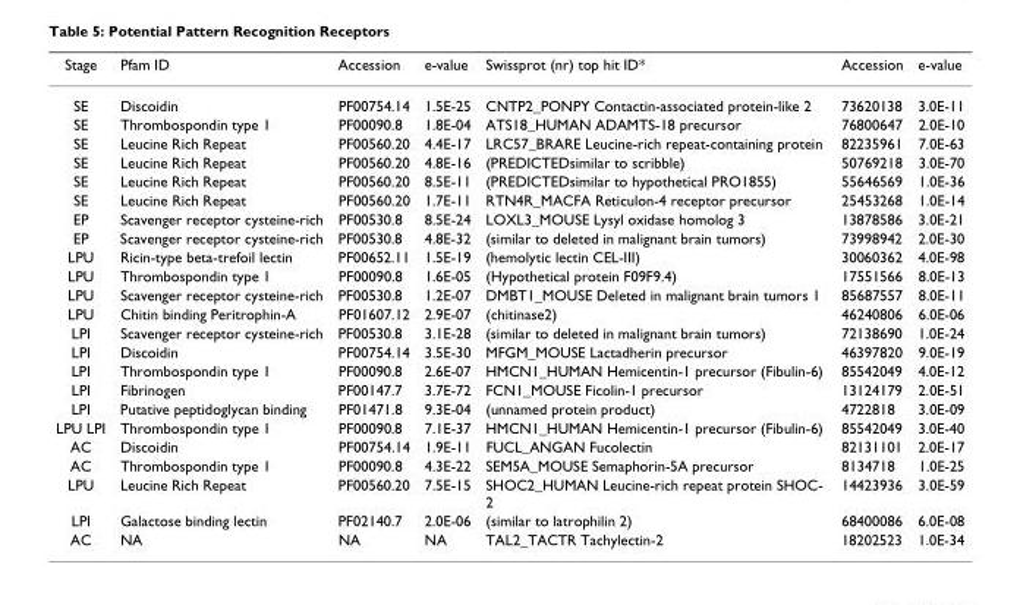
<table><thead><tr><td>Stage</td><td>Pfam ID</td><td>Accession</td><td>e-value</td><td>Swissprot (nr) top hit ID*</td><td>Accession</td><td>e-value</td></tr></thead><tbody><tr><td>SE</td><td>Discoidin</td><td>PF00754.14</td><td>1.5E-25</td><td>CNTP2_PONPY Contactin-associated protein-like 2</td><td>73620138</td><td>3.0E-11</td></tr><tr><td>SE</td><td>Thrombospondin type 1</td><td>PF00090.8</td><td>1.8E-04</td><td>ATS18_HUMAN ADAMTS-18 precursor</td><td>76800647</td><td>2.0E-10</td></tr><tr><td>SE</td><td>Leucine Rich Repeat</td><td>PF00560.20</td><td>4.4E-17</td><td>LRC57_BRARE Leucine-rich repeat-containing protein</td><td>82235961</td><td>7.0E-63</td></tr><tr><td>SE</td><td>Leucine Rich Repeat</td><td>PF00560.20</td><td>4.8E-16</td><td>(PREDICTEDsimilar to scribble)</td><td>50769218</td><td>3.0E-70</td></tr><tr><td>SE</td><td>Leucine Rich Repeat</td><td>PF00560.20</td><td>8.5E-11</td><td>(PREDICTEDsimilar to hypothetical PRO1855)</td><td>55646569</td><td>1.0E-36</td></tr><tr><td>SE</td><td>Leucine Rich Repeat</td><td>PF00560.20</td><td>1.7E-11</td><td>RTN4R_MACFA Reticulon-4 receptor precursor</td><td>25453268</td><td>1.0E-14</td></tr><tr><td>EP</td><td>Scavenger receptor cysteine-rich</td><td>PF00530.8</td><td>8.5E-24</td><td>LOXL3_MOUSE Lysyl oxidase homolog 3</td><td>13878586</td><td>3.0E-21</td></tr><tr><td>EP</td><td>Scavenger receptor cysteine-rich</td><td>PF00530.8</td><td>4.8E-32</td><td>(similar to deleted in malignant brain tumors)</td><td>73998942</td><td>2.0E-30</td></tr><tr><td>LPU</td><td>Ricin-type beta-trefoil lectin</td><td>PF00652.11</td><td>1.5E-19</td><td>(hemolytic lectin CEL-III)</td><td>30060362</td><td>4.0E-98</td></tr><tr><td>LPU</td><td>Thrombospondin type 1</td><td>PF00090.8</td><td>1.6E-05</td><td>(Hypothetical protein F09F9.4)</td><td>17551566</td><td>8.0E-13</td></tr><tr><td>LPU</td><td>Scavenger receptor cysteine-rich</td><td>PF00530.8</td><td>1.2E-07</td><td>DMBT1_MOUSE Deleted in malignant brain tumors 1</td><td>85687557</td><td>8.0E-11</td></tr><tr><td>LPU</td><td>Chitin binding Peritrophin-A</td><td>PF01607.12</td><td>2.9E-07</td><td>(chitinase2)</td><td>46240806</td><td>6.0E-06</td></tr><tr><td>LPI</td><td>Scavenger receptor cysteine-rich</td><td>PF00530.8</td><td>3.1E-28</td><td>(similar to deleted in malignant brain tumors)</td><td>72138690</td><td>1.0E-24</td></tr><tr><td>LPI</td><td>Discoidin</td><td>PF00754.14</td><td>3.5E-30</td><td>MFGM_MOUSE Lactadherin precursor</td><td>46397820</td><td>9.0E-19</td></tr><tr><td>LPI</td><td>Thrombospondin type 1</td><td>PF00090.8</td><td>2.6E-07</td><td>HMCN1_HUMAN Hemicentin-1 precursor (Fibulin-6)</td><td>85542049</td><td>4.0E-12</td></tr><tr><td>LPI</td><td>Fibrinogen</td><td>PF00147.7</td><td>3.7E-72</td><td>FCN1_MOUSE Ficolin-1 precursor</td><td>13124179</td><td>2.0E-51</td></tr><tr><td>LPI</td><td>Putative peptidoglycan binding</td><td>PF01471.8</td><td>9.3E-04</td><td>(unnamed protein product)</td><td>4722818</td><td>3.0E-09</td></tr><tr><td>LPU LPI</td><td>Thrombospondin type 1</td><td>PF00090.8</td><td>7.1E-37</td><td>HMCN1_HUMAN Hemicentin-1 precursor (Fibulin-6)</td><td>85542049</td><td>3.0E-40</td></tr><tr><td>AC</td><td>Discoidin</td><td>PF00754.14</td><td>1.9E-11</td><td>FUCL_ANGAN Fucolectin</td><td>82131101</td><td>2.0E-17</td></tr><tr><td>AC</td><td>Thrombospondin type 1</td><td>PF00090.8</td><td>4.3E-22</td><td>SEM5A_MOUSE Semaphorin-5A precursor</td><td>8134718</td><td>1.0E-25</td></tr><tr><td>LPU</td><td>Leucine Rich Repeat</td><td>PF00560.20</td><td>7.5E-15</td><td>SHOC2_HUMAN Leucine-rich repeat protein SHOC- 2</td><td>14423936</td><td>3.0E-59</td></tr><tr><td>LPI</td><td>Galactose binding lectin</td><td>PF02140.7</td><td>2.0E-06</td><td>(similar to latrophilin 2)</td><td>68400086</td><td>6.0E-08</td></tr><tr><td>AC</td><td>NA</td><td>NA</td><td>NA</td><td>TAL2_TACTR Tachylectin-2</td><td>18202523</td><td>1.0E-34</td></tr></tbody></table>